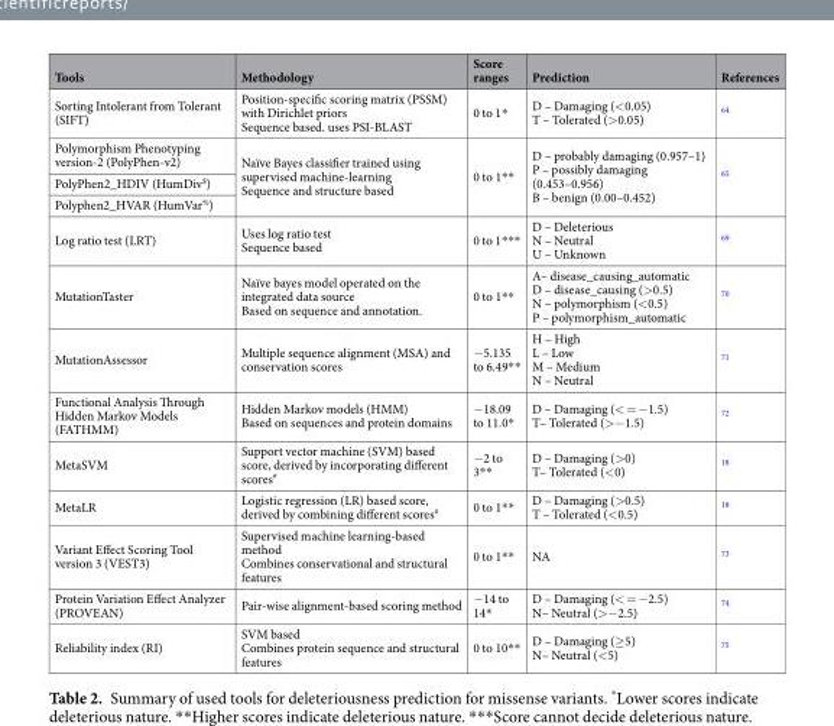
<table><thead><tr><td>Tools</td><td>Methodology</td><td>Score ranges</td><td>Prediction</td><td>References</td></tr></thead><tbody><tr><td>Sorting Intolerant from Tolerant (SIFT)</td><td>Position-specific scoring matrix (PSSM) with Dirichlet priors Sequence based. uses PSI-BLAST</td><td>0 to 1*</td><td>D – Damaging (&lt;0.05) T – Tolerated (&gt;0.05)</td><td><sup>64</sup></td></tr><tr><td>Polymorphism Phenotyping version-2 (PolyPhen-v2)</td><td rowspan="3">Naïve Bayes classifier trained using supervised machine-learning Sequence and structure based</td><td rowspan="3">0 to 1**</td><td rowspan="3">D – probably damaging (0.957–1) P – possibly damaging (0.453–0.956) B – benign (0.00–0.452)</td><td rowspan="3"><sup>65</sup></td></tr><tr><td>PolyPhen2_HDIV (HumDiv<sup>$</sup>)</td></tr><tr><td>Polyphen2_HVAR (HumVar<sup>%</sup>)</td></tr><tr><td>Log ratio test (LRT)</td><td>Uses log ratio test Sequence based</td><td>0 to 1***</td><td>D – Deleterious N – Neutral U – Unknown</td><td><sup>69</sup></td></tr><tr><td>MutationTaster</td><td>Naïve bayes model operated on the integrated data source Based on sequence and annotation.</td><td>0 to 1**</td><td>A– disease_causing_automatic D – disease_causing (&gt;0.5) N – polymorphism (&lt;0.5) P – polymorphism_automatic</td><td><sup>70</sup></td></tr><tr><td>MutationAssessor</td><td>Multiple sequence alignment (MSA) and conservation scores</td><td>−5.135 to 6.49**</td><td>H – High L – Low M – Medium N – Neutral</td><td><sup>71</sup></td></tr><tr><td>Functional Analysis Through Hidden Markov Models (FATHMM)</td><td>Hidden Markov models (HMM) Based on sequences and protein domains</td><td>−18.09 to 11.0*</td><td>D – Damaging (&lt; = −1.5) T– Tolerated (&gt;−1.5)</td><td><sup>72</sup></td></tr><tr><td>MetaSVM</td><td>Support vector machine (SVM) based score, derived by incorporating different scores<sup>#</sup></td><td>−2 to 3**</td><td>D – Damaging (&gt;0) T– Tolerated (&lt;0)</td><td><sup>18</sup></td></tr><tr><td>MetaLR</td><td>Logistic regression (LR) based score, derived by combining different scores<sup>#</sup></td><td>0 to 1**</td><td>D – Damaging (&gt;0.5) T – Tolerated (&lt;0.5)</td><td><sup>18</sup></td></tr><tr><td>Variant Effect Scoring Tool version 3 (VEST3)</td><td>Supervised machine learning-based method Combines conservational and structural features</td><td>0 to 1**</td><td>NA</td><td><sup>73</sup></td></tr><tr><td>Protein Variation Effect Analyzer (PROVEAN)</td><td>Pair-wise alignment-based scoring method</td><td>−14 to 14*</td><td>D – Damaging (&lt; = −2.5) N– Neutral (&gt;−2.5)</td><td><sup>74</sup></td></tr><tr><td>Reliability index (RI)</td><td>SVM based Combines protein sequence and structural features</td><td>0 to 10**</td><td>D – Damaging (≥5) N– Neutral (&lt;5)</td><td><sup>75</sup></td></tr></tbody></table>